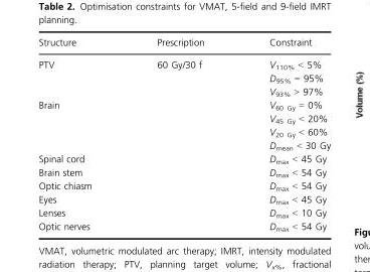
<table><thead><tr><td>Structure</td><td>Prescription</td><td>Constraint</td></tr></thead><tbody><tr><td rowspan="3">PTV</td><td>60 Gy/30 f</td><td>V<sub>110%</sub> &lt; 5%</td></tr><tr><td></td><td>D<sub>95%</sub> = 95%</td></tr><tr><td></td><td>V<sub>93%</sub> &gt; 97%</td></tr><tr><td rowspan="4">Brain</td><td></td><td>V<sub>60 Gy</sub> = 0%</td></tr><tr><td></td><td>V<sub>45 Gy</sub> &lt; 20%</td></tr><tr><td></td><td>V<sub>20 Gy</sub> &lt; 60%</td></tr><tr><td></td><td>D<sub>mean</sub> &lt; 30 Gy</td></tr><tr><td>Spinal cord</td><td></td><td>D<sub>max</sub> &lt; 45 Gy</td></tr><tr><td>Brain stem</td><td></td><td>D<sub>max</sub> &lt; 54 Gy</td></tr><tr><td>Optic chiasm</td><td></td><td>D<sub>max</sub> &lt; 54 Gy</td></tr><tr><td>Eyes</td><td></td><td>D<sub>max</sub> &lt; 45 Gy</td></tr><tr><td>Lenses</td><td></td><td>D<sub>max</sub> &lt; 10 Gy</td></tr><tr><td>Optic nerves</td><td></td><td>D<sub>max</sub> &lt; 54 Gy</td></tr></tbody></table>